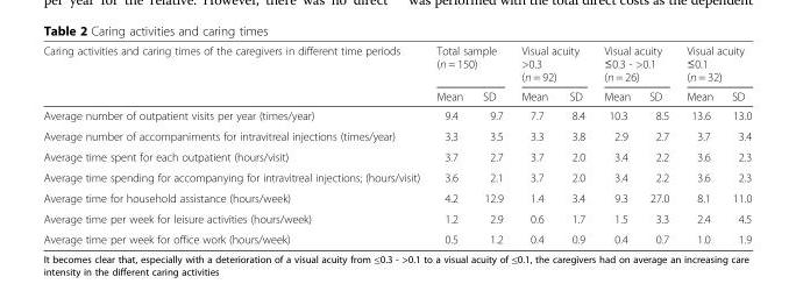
<table><thead><tr><td rowspan="2">Caring activities and caring times of the caregivers in different time periods</td><td colspan="2">Total sample (n = 150)</td><td colspan="2">Visual acuity &gt;0.3 (n = 92)</td><td colspan="2">Visual acuity ≤0.3 - &gt;0.1 (n = 26)</td><td colspan="2">Visual acuity ≤0.1 (n = 32)</td></tr><tr><td>Mean</td><td>SD</td><td>Mean</td><td>SD</td><td>Mean</td><td>SD</td><td>Mean</td><td>SD</td></tr></thead><tbody><tr><td>Average number of outpatient visits per year (times/year)</td><td>9.4</td><td>9.7</td><td>7.7</td><td>8.4</td><td>10.3</td><td>8.5</td><td>13.6</td><td>13.0</td></tr><tr><td>Average number of accompaniments for intravitreal injections (times/year)</td><td>3.3</td><td>3.5</td><td>3.3</td><td>3.8</td><td>2.9</td><td>2.7</td><td>3.7</td><td>3.4</td></tr><tr><td>Average time spent for each outpatient (hours/visit)</td><td>3.7</td><td>2.7</td><td>3.7</td><td>2.0</td><td>3.4</td><td>2.2</td><td>3.6</td><td>2.3</td></tr><tr><td>Average time spending for accompanying for intravitreal injections; (hours/visit)</td><td>3.6</td><td>2.1</td><td>3.7</td><td>2.0</td><td>3.4</td><td>2.2</td><td>3.6</td><td>2.3</td></tr><tr><td>Average time for household assistance (hours/week)</td><td>4.2</td><td>12.9</td><td>1.4</td><td>3.4</td><td>9.3</td><td>27.0</td><td>8.1</td><td>11.0</td></tr><tr><td>Average time per week for leisure activities (hours/week)</td><td>1.2</td><td>2.9</td><td>0.6</td><td>1.7</td><td>1.5</td><td>3.3</td><td>2.4</td><td>4.5</td></tr><tr><td>Average time per week for office work (hours/week)</td><td>0.5</td><td>1.2</td><td>0.4</td><td>0.9</td><td>0.4</td><td>0.7</td><td>1.0</td><td>1.9</td></tr></tbody></table>